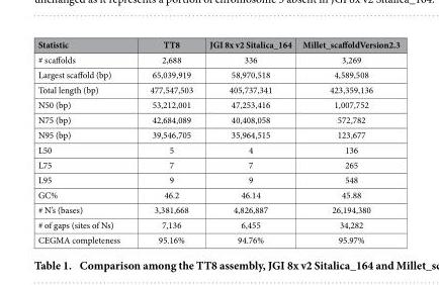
<table><thead><tr><td>Statistic</td><td>TT8</td><td>JGI 8x v2 Sitalica_164</td><td>Millet_scaffoldVersion2.3</td></tr></thead><tbody><tr><td># scaffolds</td><td>2,688</td><td>336</td><td>3,269</td></tr><tr><td>Largest scaffold (bp)</td><td>65,039,919</td><td>58,970,518</td><td>4,589,508</td></tr><tr><td>Total length (bp)</td><td>477,547,503</td><td>405,737,341</td><td>423,359,136</td></tr><tr><td>N50 (bp)</td><td>53,212,001</td><td>47,253,416</td><td>1,007,752</td></tr><tr><td>N75 (bp)</td><td>42,684,089</td><td>40,408,058</td><td>572,782</td></tr><tr><td>N95 (bp)</td><td>39,546,705</td><td>35,964,515</td><td>123,677</td></tr><tr><td>L50</td><td>5</td><td>4</td><td>136</td></tr><tr><td>L75</td><td>7</td><td>7</td><td>265</td></tr><tr><td>L95</td><td>9</td><td>9</td><td>548</td></tr><tr><td>GC%</td><td>46.2</td><td>46.14</td><td>45.88</td></tr><tr><td># N’s (bases)</td><td>3,381,668</td><td>4,826,887</td><td>26,194,380</td></tr><tr><td># of gaps (sites of Ns)</td><td>7,136</td><td>6,455</td><td>34,282</td></tr><tr><td>CEGMA completeness</td><td>95.16%</td><td>94.76%</td><td>95.97%</td></tr></tbody></table>